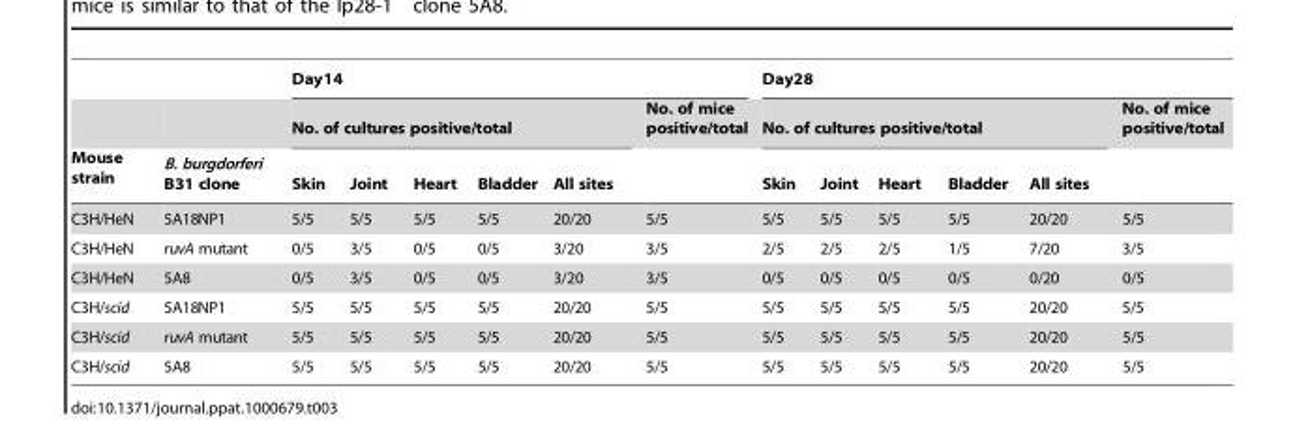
<table><thead><tr><td rowspan="3">Mouse strain</td><td rowspan="3">B. burgdorferi B31 clone</td><td colspan="6">Day14</td><td colspan="6">Day28</td></tr><tr><td colspan="5">No. of cultures positive/total</td><td rowspan="2">No. of mice positive/total</td><td colspan="5">No. of cultures positive/total</td><td rowspan="2">No. of mice positive/total</td></tr><tr><td>Skin</td><td>Joint</td><td>Heart</td><td>Bladder</td><td>All sites</td><td>Skin</td><td>Joint</td><td>Heart</td><td>Bladder</td><td>All sites</td></tr></thead><tbody><tr><td>C3H/HeN</td><td>5A18NP1</td><td>5/5</td><td>5/5</td><td>5/5</td><td>5/5</td><td>20/20</td><td>5/5</td><td>5/5</td><td>5/5</td><td>5/5</td><td>5/5</td><td>20/20</td><td>5/5</td></tr><tr><td>C3H/HeN</td><td>ruvA mutant</td><td>0/5</td><td>3/5</td><td>0/5</td><td>0/5</td><td>3/20</td><td>3/5</td><td>2/5</td><td>2/5</td><td>2/5</td><td>1/5</td><td>7/20</td><td>3/5</td></tr><tr><td>C3H/HeN</td><td>5A8</td><td>0/5</td><td>3/5</td><td>0/5</td><td>0/5</td><td>3/20</td><td>3/5</td><td>0/5</td><td>0/5</td><td>0/5</td><td>0/5</td><td>0/20</td><td>0/5</td></tr><tr><td>C3H/scid</td><td>5A18NP1</td><td>5/5</td><td>5/5</td><td>5/5</td><td>5/5</td><td>20/20</td><td>5/5</td><td>5/5</td><td>5/5</td><td>5/5</td><td>5/5</td><td>20/20</td><td>5/5</td></tr><tr><td>C3H/scid</td><td>ruvA mutant</td><td>5/5</td><td>5/5</td><td>5/5</td><td>5/5</td><td>20/20</td><td>5/5</td><td>5/5</td><td>5/5</td><td>5/5</td><td>5/5</td><td>20/20</td><td>5/5</td></tr><tr><td>C3H/scid</td><td>5A8</td><td>5/5</td><td>5/5</td><td>5/5</td><td>5/5</td><td>20/20</td><td>5/5</td><td>5/5</td><td>5/5</td><td>5/5</td><td>5/5</td><td>20/20</td><td>5/5</td></tr></tbody></table>